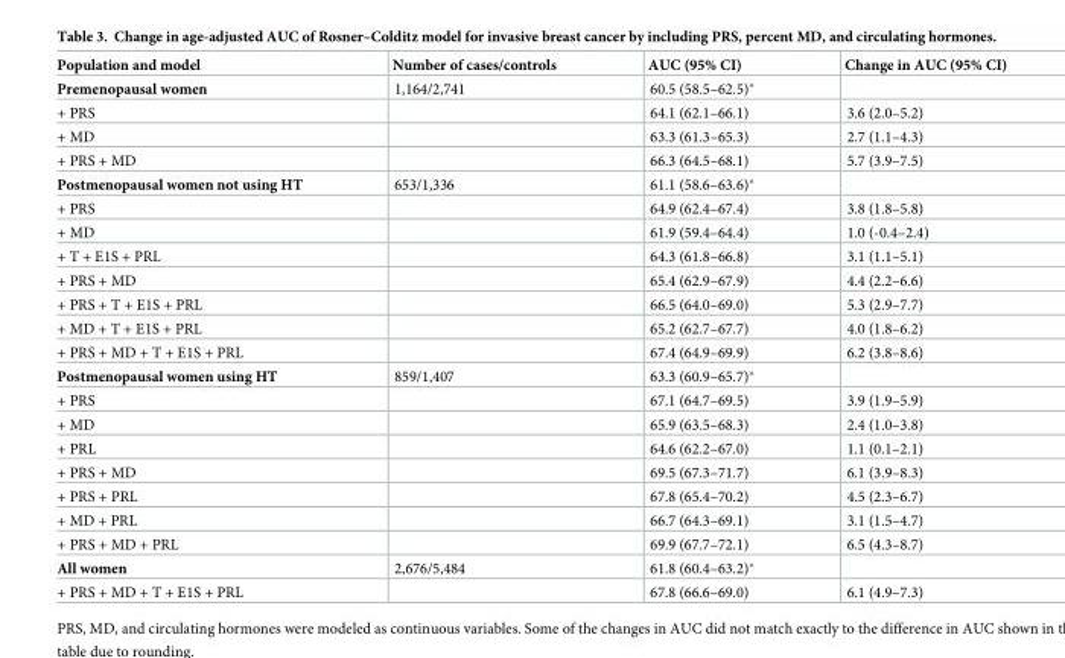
<table><thead><tr><td>Population and model</td><td>Number of cases/controls</td><td>AUC (95% CI)</td><td>Change in AUC (95% CI)</td></tr></thead><tbody><tr><td>Premenopausal women</td><td>1,164/2,741</td><td>60.5 (58.5–62.5)*</td><td></td></tr><tr><td>+ PRS</td><td></td><td>64.1 (62.1–66.1)</td><td>3.6 (2.0–5.2)</td></tr><tr><td>+ MD</td><td></td><td>63.3 (61.3–65.3)</td><td>2.7 (1.1–4.3)</td></tr><tr><td>+ PRS + MD</td><td></td><td>66.3 (64.5–68.1)</td><td>5.7 (3.9–7.5)</td></tr><tr><td>Postmenopausal women not using HT</td><td>653/1,336</td><td>61.1 (58.6–63.6)*</td><td></td></tr><tr><td>+ PRS</td><td></td><td>64.9 (62.4–67.4)</td><td>3.8 (1.8–5.8)</td></tr><tr><td>+ MD</td><td></td><td>61.9 (59.4–64.4)</td><td>1.0 (-0.4–2.4)</td></tr><tr><td>+ T + E1S + PRL</td><td></td><td>64.3 (61.8–66.8)</td><td>3.1 (1.1–5.1)</td></tr><tr><td>+ PRS + MD</td><td></td><td>65.4 (62.9–67.9)</td><td>4.4 (2.2–6.6)</td></tr><tr><td>+ PRS + T + E1S + PRL</td><td></td><td>66.5 (64.0–69.0)</td><td>5.3 (2.9–7.7)</td></tr><tr><td>+ MD + T + E1S + PRL</td><td></td><td>65.2 (62.7–67.7)</td><td>4.0 (1.8–6.2)</td></tr><tr><td>+ PRS + MD + T + E1S + PRL</td><td></td><td>67.4 (64.9–69.9)</td><td>6.2 (3.8–8.6)</td></tr><tr><td>Postmenopausal women using HT</td><td>859/1,407</td><td>63.3 (60.9–65.7)*</td><td></td></tr><tr><td>+ PRS</td><td></td><td>67.1 (64.7–69.5)</td><td>3.9 (1.9–5.9)</td></tr><tr><td>+ MD</td><td></td><td>65.9 (63.5–68.3)</td><td>2.4 (1.0–3.8)</td></tr><tr><td>+ PRL</td><td></td><td>64.6 (62.2–67.0)</td><td>1.1 (0.1–2.1)</td></tr><tr><td>+ PRS + MD</td><td></td><td>69.5 (67.3–71.7)</td><td>6.1 (3.9–8.3)</td></tr><tr><td>+ PRS + PRL</td><td></td><td>67.8 (65.4–70.2)</td><td>4.5 (2.3–6.7)</td></tr><tr><td>+ MD + PRL</td><td></td><td>66.7 (64.3–69.1)</td><td>3.1 (1.5–4.7)</td></tr><tr><td>+ PRS + MD + PRL</td><td></td><td>69.9 (67.7–72.1)</td><td>6.5 (4.3–8.7)</td></tr><tr><td>All women</td><td>2,676/5,484</td><td>61.8 (60.4–63.2)*</td><td></td></tr><tr><td>+ PRS + MD + T + E1S + PRL</td><td></td><td>67.8 (66.6–69.0)</td><td>6.1 (4.9–7.3)</td></tr></tbody></table>